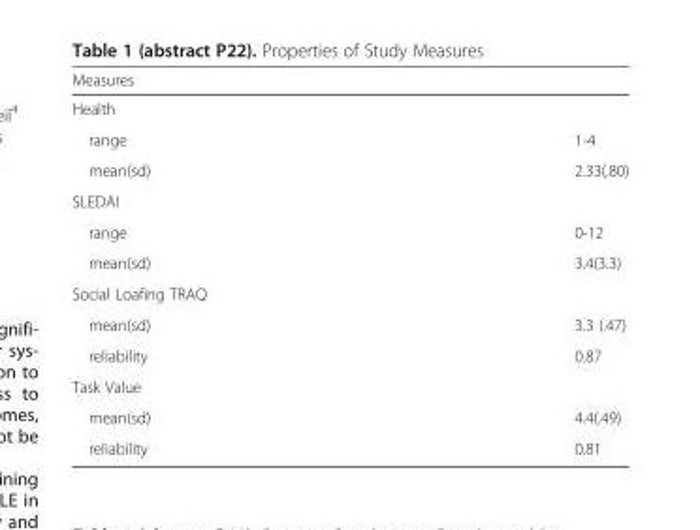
<table><thead><tr><td rowspan="2" colspan="2">Measures Health</td></tr><tr></tr><tr><td>range</td><td>1-4</td></tr></thead><tbody><tr><td>mean(sd)</td><td>2.33(.80)</td></tr><tr><td colspan="2">SLEDAI</td></tr><tr><td>range</td><td>0-12</td></tr><tr><td>mean(sd)</td><td>3.4(3.3)</td></tr><tr><td colspan="2">Social Loafing TRAQ</td></tr><tr><td>mean(sd)</td><td>3.3 (.47)</td></tr><tr><td>reliability</td><td>0.87</td></tr><tr><td colspan="2">Task Value</td></tr><tr><td>mean(sd)</td><td>4.4(.49)</td></tr><tr><td>reliability</td><td>0.81</td></tr></tbody></table>